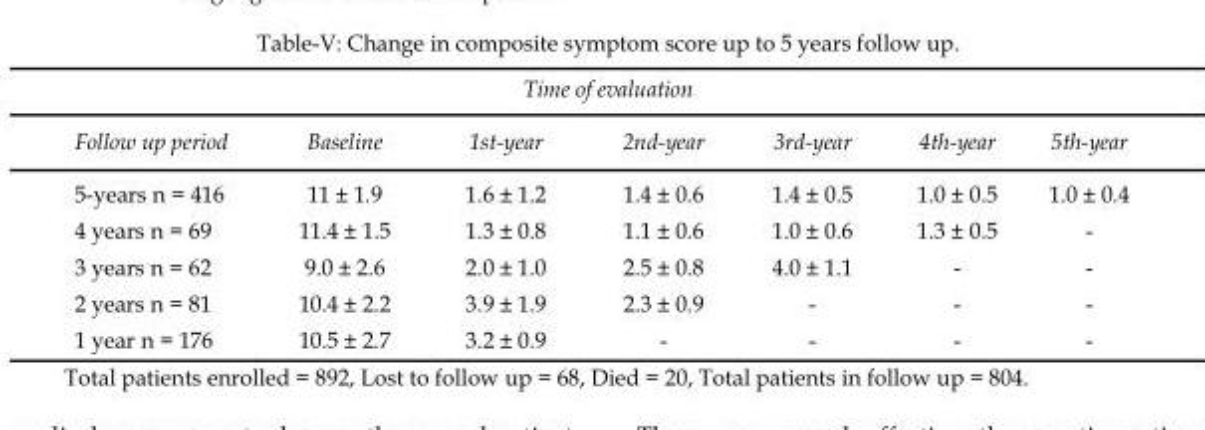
<table><thead><tr><td colspan="7">Time of evaluation</td></tr><tr><td>Follow up period</td><td>Baseline</td><td>1st-year</td><td>2nd-year</td><td>3rd-year</td><td>4th-year</td><td>5th-year</td></tr></thead><tbody><tr><td>5-years n = 416</td><td>11 ± 1.9</td><td>1.6 ± 1.2</td><td>1.4 ± 0.6</td><td>1.4 ± 0.5</td><td>1.0 ± 0.5</td><td>1.0 ± 0.4</td></tr><tr><td>4 years n = 69</td><td>11.4 ± 1.5</td><td>1.3 ± 0.8</td><td>1.1 ± 0.6</td><td>1.0 ± 0.6</td><td>1.3 ± 0.5</td><td>-</td></tr><tr><td>3 years n = 62</td><td>9.0 ± 2.6</td><td>2.0 ± 1.0</td><td>2.5 ± 0.8</td><td>4.0 ± 1.1</td><td>-</td><td>-</td></tr><tr><td>2 years n = 81</td><td>10.4 ± 2.2</td><td>3.9 ± 1.9</td><td>2.3 ± 0.9</td><td>-</td><td>-</td><td>-</td></tr><tr><td>1 year n = 176</td><td>10.5 ± 2.7</td><td>3.2 ± 0.9</td><td>-</td><td>-</td><td>-</td><td>-</td></tr></tbody></table>